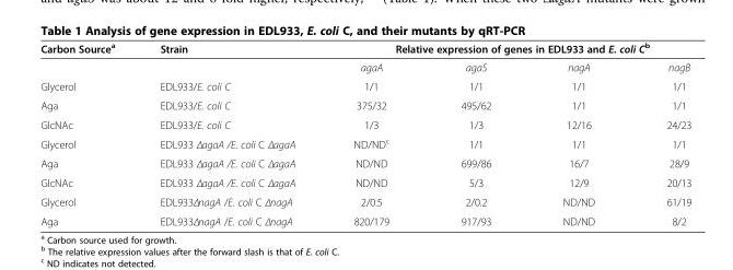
<table><thead><tr><td rowspan="2">Carbon Source<sup>a</sup></td><td rowspan="2">Strain</td><td colspan="4">Relative expression of genes in EDL933 and E. coli C<sup>b</sup></td></tr><tr><td>agaA</td><td>agaS</td><td>nagA</td><td>nagB</td></tr></thead><tbody><tr><td>Glycerol</td><td>EDL933/E. coli C</td><td>1/1</td><td>1/1</td><td>1/1</td><td>1/1</td></tr><tr><td>Aga</td><td>EDL933/E. coli C</td><td>375/32</td><td>495/62</td><td>1/1</td><td>1/1</td></tr><tr><td>GlcNAc</td><td>EDL933/E. coli C</td><td>1/3</td><td>1/3</td><td>12/16</td><td>24/23</td></tr><tr><td>Glycerol</td><td>EDL933 ΔagaA /E. coli C ΔagaA</td><td>ND/ND<sup>c</sup></td><td>1/1</td><td>1/1</td><td>1/1</td></tr><tr><td>Aga</td><td>EDL933 ΔagaA /E. coli C ΔagaA</td><td>ND/ND</td><td>699/86</td><td>16/7</td><td>28/9</td></tr><tr><td>GlcNAc</td><td>EDL933 ΔagaA /E. coli C ΔagaA</td><td>ND/ND</td><td>5/3</td><td>12/9</td><td>20/13</td></tr><tr><td>Glycerol</td><td>EDL933ΔnagA /E. coli C ΔnagA</td><td>2/0.5</td><td>2/0.2</td><td>ND/ND</td><td>61/19</td></tr><tr><td>Aga</td><td>EDL933ΔnagA /E. coli C ΔnagA</td><td>820/179</td><td>917/93</td><td>ND/ND</td><td>8/2</td></tr></tbody></table>